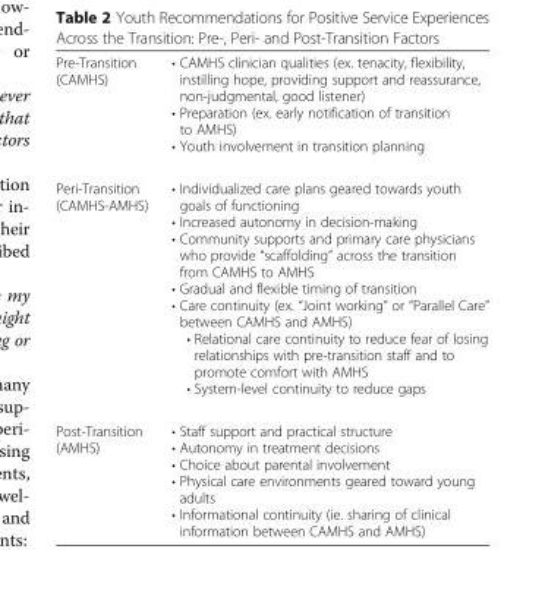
<table><tbody><tr><td>Pre-Transition (CAMHS)</td><td>• CAMHS clinician qualities (ex. tenacity, flexibility, instilling hope, providing support and reassurance, non-judgmental, good listener) • Preparation (ex. early notification of transition to AMHS) • Youth involvement in transition planning</td></tr><tr><td>Peri-Transition (CAMHS-AMHS)</td><td>• Individualized care plans geared towards youth goals of functioning • Increased autonomy in decision-making • Community supports and primary care physicians who provide “scaffolding” across the transition from CAMHS to AMHS • Gradual and flexible timing of transition • Care continuity (ex. “Joint working” or “Parallel Care” between CAMHS and AMHS) • Relational care continuity to reduce fear of losing relationships with pre-transition staff and to promote comfort with AMHS • System-level continuity to reduce gaps</td></tr><tr><td>Post-Transition (AMHS)</td><td>• Staff support and practical structure • Autonomy in treatment decisions • Choice about parental involvement • Physical care environments geared toward young adults • Informational continuity (ie. sharing of clinical information between CAMHS and AMHS)</td></tr></tbody></table>